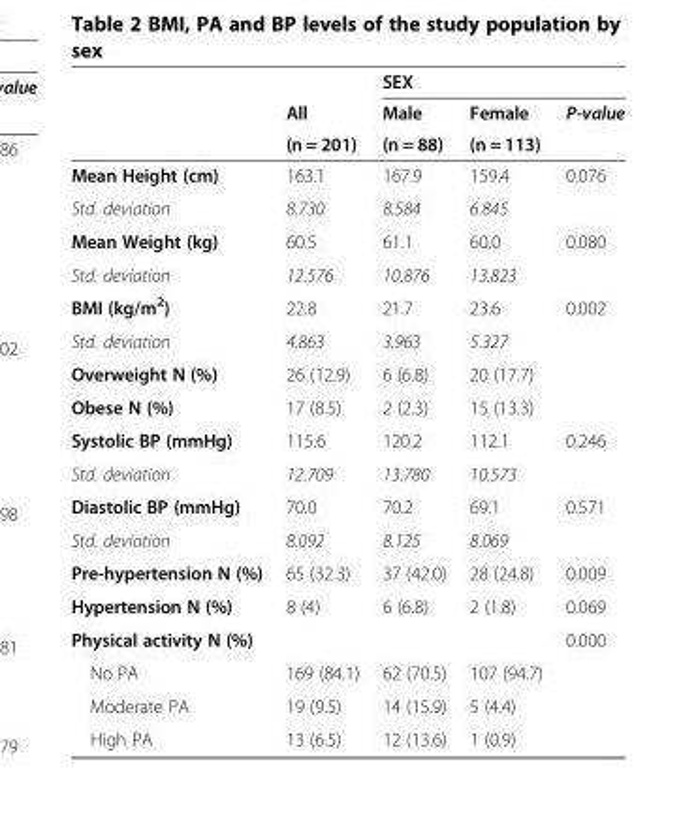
<table><thead><tr><td rowspan="3"></td><td rowspan="3">All (n = 201)</td><td colspan="3">SEX</td></tr><tr><td rowspan="2">Male (n = 88)</td><td rowspan="2">Female (n = 113)</td><td rowspan="2">P-value</td></tr><tr></tr></thead><tbody><tr><td>Mean Height (cm)</td><td>163.1</td><td>167.9</td><td>159.4</td><td>0.076</td></tr><tr><td>Std. deviation</td><td>8.730</td><td>8.584</td><td>6.845</td><td></td></tr><tr><td>Mean Weight (kg)</td><td>60.5</td><td>61.1</td><td>60.0</td><td>0.080</td></tr><tr><td>Std. deviation</td><td>12.576</td><td>10.876</td><td>13.823</td><td></td></tr><tr><td>BMI (kg/m<sup>2</sup>)</td><td>22.8</td><td>21.7</td><td>23.6</td><td>0.002</td></tr><tr><td>Std. deviation</td><td>4.863</td><td>3.963</td><td>5.327</td><td></td></tr><tr><td>Overweight N (%)</td><td>26 (12.9)</td><td>6 (6.8)</td><td>20 (17.7)</td><td></td></tr><tr><td>Obese N (%)</td><td>17 (8.5)</td><td>2 (2.3)</td><td>15 (13.3)</td><td></td></tr><tr><td>Systolic BP (mmHg)</td><td>115.6</td><td>120.2</td><td>112.1</td><td>0.246</td></tr><tr><td>Std. deviation</td><td>12.709</td><td>13.780</td><td>10.573</td><td></td></tr><tr><td>Diastolic BP (mmHg)</td><td>70.0</td><td>70.2</td><td>69.1</td><td>0.571</td></tr><tr><td>Std. deviation</td><td>8.092</td><td>8.125</td><td>8.069</td><td></td></tr><tr><td>Pre-hypertension N (%)</td><td>65 (32.3)</td><td>37 (42.0)</td><td>28 (24.8)</td><td>0.009</td></tr><tr><td>Hypertension N (%)</td><td>8 (4)</td><td>6 (6.8)</td><td>2 (1.8)</td><td>0.069</td></tr><tr><td>Physical activity N (%)</td><td></td><td></td><td></td><td>0.000</td></tr><tr><td>No PA</td><td>169 (84.1)</td><td>62 (70.5)</td><td>107 (94.7)</td><td></td></tr><tr><td>Moderate PA</td><td>19 (9.5)</td><td>14 (15.9)</td><td>5 (4.4)</td><td></td></tr><tr><td>High PA</td><td>13 (6.5)</td><td>12 (13.6)</td><td>1 (0.9)</td><td></td></tr></tbody></table>